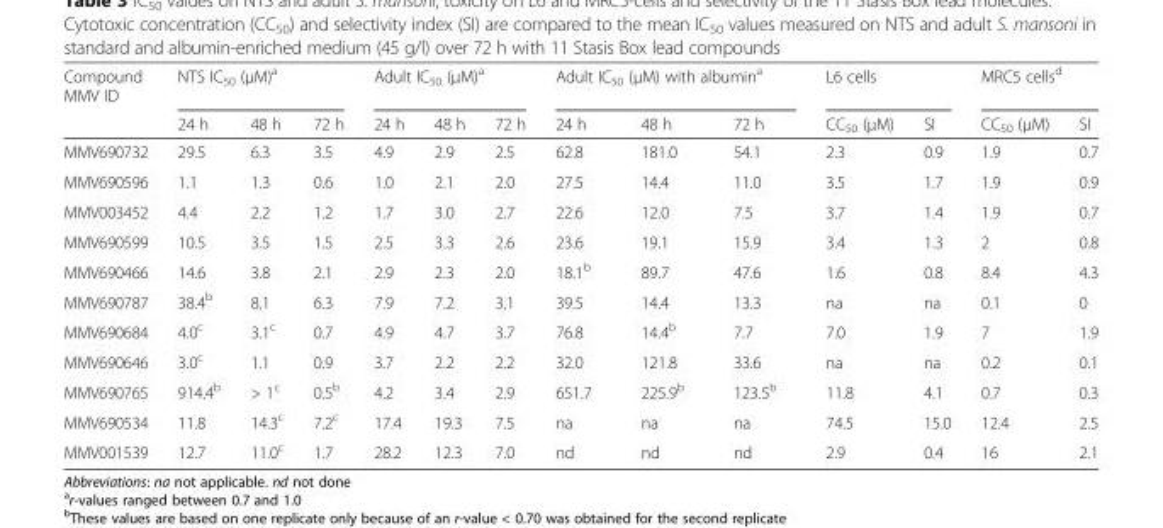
<table><thead><tr><td rowspan="2">Compound MMV ID</td><td colspan="3">NTS IC<sub>50</sub> (μM)<sup>a</sup></td><td colspan="3">Adult IC<sub>50</sub> (μM)<sup>a</sup></td><td colspan="3">Adult IC<sub>50</sub> (μM) with albumin<sup>a</sup></td><td colspan="2">L6 cells</td><td colspan="2">MRC5 cells<sup>d</sup></td></tr><tr><td>24 h</td><td>48 h</td><td>72 h</td><td>24 h</td><td>48 h</td><td>72 h</td><td>24 h</td><td>48 h</td><td>72 h</td><td>CC<sub>50</sub> (μM)</td><td>SI</td><td>CC<sub>50</sub> (μM)</td><td>SI</td></tr></thead><tbody><tr><td>MMV690732</td><td>29.5</td><td>6.3</td><td>3.5</td><td>4.9</td><td>2.9</td><td>2.5</td><td>62.8</td><td>181.0</td><td>54.1</td><td>2.3</td><td>0.9</td><td>1.9</td><td>0.7</td></tr><tr><td>MMV690596</td><td>1.1</td><td>1.3</td><td>0.6</td><td>1.0</td><td>2.1</td><td>2.0</td><td>27.5</td><td>14.4</td><td>11.0</td><td>3.5</td><td>1.7</td><td>1.9</td><td>0.9</td></tr><tr><td>MMV003452</td><td>4.4</td><td>2.2</td><td>1.2</td><td>1.7</td><td>3.0</td><td>2.7</td><td>22.6</td><td>12.0</td><td>7.5</td><td>3.7</td><td>1.4</td><td>1.9</td><td>0.7</td></tr><tr><td>MMV690599</td><td>10.5</td><td>3.5</td><td>1.5</td><td>2.5</td><td>3.3</td><td>2.6</td><td>23.6</td><td>19.1</td><td>15.9</td><td>3.4</td><td>1.3</td><td>2</td><td>0.8</td></tr><tr><td>MMV690466</td><td>14.6</td><td>3.8</td><td>2.1</td><td>2.9</td><td>2.3</td><td>2.0</td><td>18.1<sup>b</sup></td><td>89.7</td><td>47.6</td><td>1.6</td><td>0.8</td><td>8.4</td><td>4.3</td></tr><tr><td>MMV690787</td><td>38.4<sup>b</sup></td><td>8.1</td><td>6.3</td><td>7.9</td><td>7.2</td><td>3.1</td><td>39.5</td><td>14.4</td><td>13.3</td><td>na</td><td>na</td><td>0.1</td><td>0</td></tr><tr><td>MMV690684</td><td>4.0<sup>c</sup></td><td>3.1<sup>c</sup></td><td>0.7</td><td>4.9</td><td>4.7</td><td>3.7</td><td>76.8</td><td>14.4<sup>b</sup></td><td>7.7</td><td>7.0</td><td>1.9</td><td>7</td><td>1.9</td></tr><tr><td>MMV690646</td><td>3.0<sup>c</sup></td><td>1.1</td><td>0.9</td><td>3.7</td><td>2.2</td><td>2.2</td><td>32.0</td><td>121.8</td><td>33.6</td><td>na</td><td>na</td><td>0.2</td><td>0.1</td></tr><tr><td>MMV690765</td><td>914.4<sup>b</sup></td><td>&gt; 1<sup>c</sup></td><td>0.5<sup>b</sup></td><td>4.2</td><td>3.4</td><td>2.9</td><td>651.7</td><td>225.9<sup>b</sup></td><td>123.5<sup>b</sup></td><td>11.8</td><td>4.1</td><td>0.7</td><td>0.3</td></tr><tr><td>MMV690534</td><td>11.8</td><td>14.3<sup>c</sup></td><td>7.2<sup>c</sup></td><td>17.4</td><td>19.3</td><td>7.5</td><td>na</td><td>na</td><td>na</td><td>74.5</td><td>15.0</td><td>12.4</td><td>2.5</td></tr><tr><td>MMV001539</td><td>12.7</td><td>11.0<sup>c</sup></td><td>1.7</td><td>28.2</td><td>12.3</td><td>7.0</td><td>nd</td><td>nd</td><td>nd</td><td>2.9</td><td>0.4</td><td>16</td><td>2.1</td></tr></tbody></table>